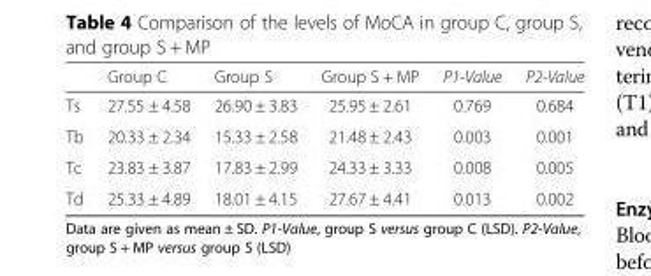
<table><thead><tr><td></td><td>Group C</td><td>Group S</td><td>Group S + MP</td><td>P1-Value</td><td>P2-Value</td></tr></thead><tbody><tr><td>Ts</td><td>27.55 ± 4.58</td><td>26.90 ± 3.83</td><td>25.95 ± 2.61</td><td>0.769</td><td>0.684</td></tr><tr><td>Tb</td><td>20.33 ± 2.34</td><td>15.33 ± 2.58</td><td>21.48 ± 2.43</td><td>0.003</td><td>0.001</td></tr><tr><td>Tc</td><td>23.83 ± 3.87</td><td>17.83 ± 2.99</td><td>24.33 ± 3.33</td><td>0.008</td><td>0.005</td></tr><tr><td>Td</td><td>25.33 ± 4.89</td><td>18.01 ± 4.15</td><td>27.67 ± 4.41</td><td>0.013</td><td>0.002</td></tr></tbody></table>